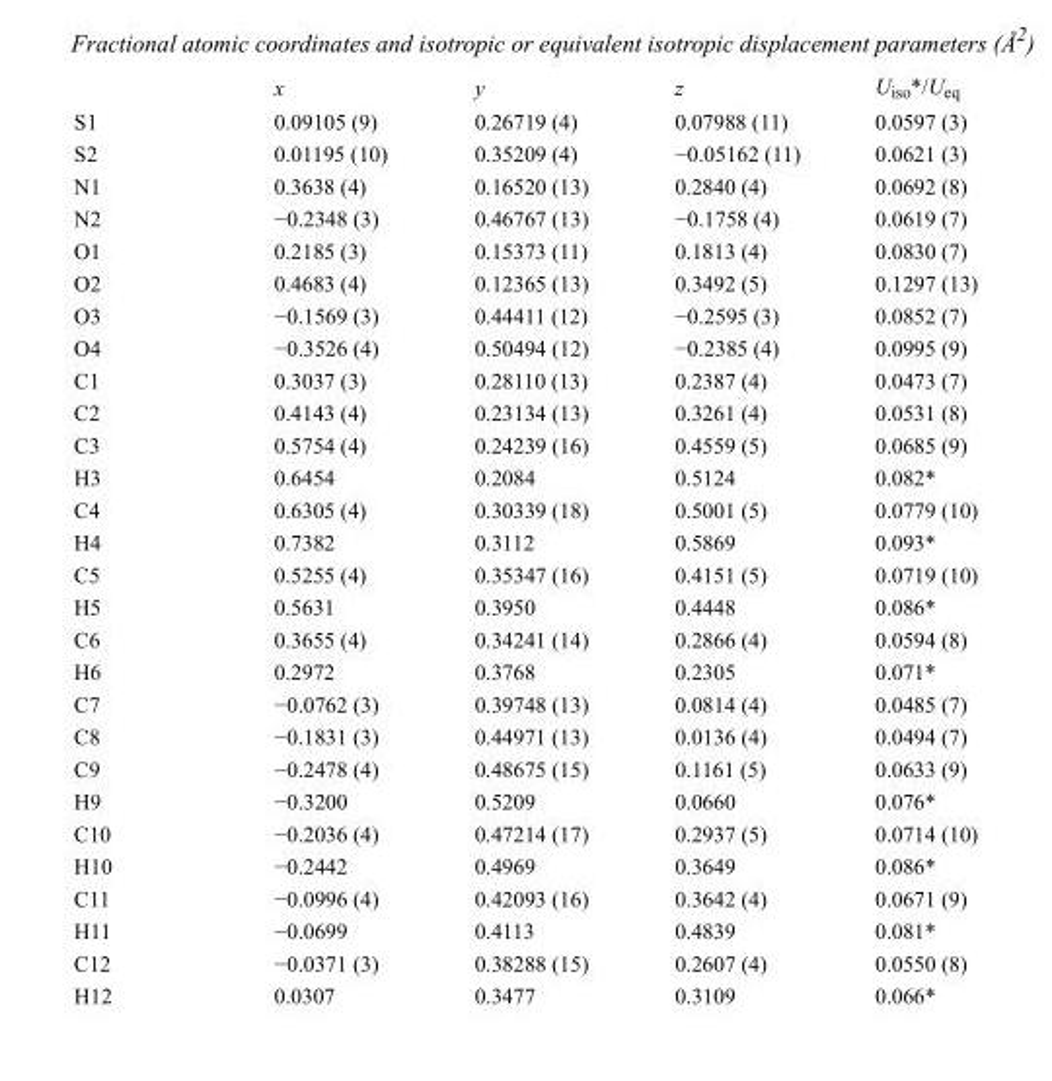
<table><thead><tr><td></td><td>x</td><td>y</td><td>z</td><td>U<sub>iso</sub>*/U<sub>eq</sub></td></tr></thead><tbody><tr><td>S1</td><td>0.09105 (9)</td><td>0.26719 (4)</td><td>0.07988 (11)</td><td>0.0597 (3)</td></tr><tr><td>S2</td><td>0.01195 (10)</td><td>0.35209 (4)</td><td>−0.05162 (11)</td><td>0.0621 (3)</td></tr><tr><td>N1</td><td>0.3638 (4)</td><td>0.16520 (13)</td><td>0.2840 (4)</td><td>0.0692 (8)</td></tr><tr><td>N2</td><td>−0.2348 (3)</td><td>0.46767 (13)</td><td>−0.1758 (4)</td><td>0.0619 (7)</td></tr><tr><td>O1</td><td>0.2185 (3)</td><td>0.15373 (11)</td><td>0.1813 (4)</td><td>0.0830 (7)</td></tr><tr><td>O2</td><td>0.4683 (4)</td><td>0.12365 (13)</td><td>0.3492 (5)</td><td>0.1297 (13)</td></tr><tr><td>O3</td><td>−0.1569 (3)</td><td>0.44411 (12)</td><td>−0.2595 (3)</td><td>0.0852 (7)</td></tr><tr><td>O4</td><td>−0.3526 (4)</td><td>0.50494 (12)</td><td>−0.2385 (4)</td><td>0.0995 (9)</td></tr><tr><td>C1</td><td>0.3037 (3)</td><td>0.28110 (13)</td><td>0.2387 (4)</td><td>0.0473 (7)</td></tr><tr><td>C2</td><td>0.4143 (4)</td><td>0.23134 (13)</td><td>0.3261 (4)</td><td>0.0531 (8)</td></tr><tr><td>C3</td><td>0.5754 (4)</td><td>0.24239 (16)</td><td>0.4559 (5)</td><td>0.0685 (9)</td></tr><tr><td>H3</td><td>0.6454</td><td>0.2084</td><td>0.5124</td><td>0.082*</td></tr><tr><td>C4</td><td>0.6305 (4)</td><td>0.30339 (18)</td><td>0.5001 (5)</td><td>0.0779 (10)</td></tr><tr><td>H4</td><td>0.7382</td><td>0.3112</td><td>0.5869</td><td>0.093*</td></tr><tr><td>C5</td><td>0.5255 (4)</td><td>0.35347 (16)</td><td>0.4151 (5)</td><td>0.0719 (10)</td></tr><tr><td>H5</td><td>0.5631</td><td>0.3950</td><td>0.4448</td><td>0.086*</td></tr><tr><td>C6</td><td>0.3655 (4)</td><td>0.34241 (14)</td><td>0.2866 (4)</td><td>0.0594 (8)</td></tr><tr><td>H6</td><td>0.2972</td><td>0.3768</td><td>0.2305</td><td>0.071*</td></tr><tr><td>C7</td><td>−0.0762 (3)</td><td>0.39748 (13)</td><td>0.0814 (4)</td><td>0.0485 (7)</td></tr><tr><td>C8</td><td>−0.1831 (3)</td><td>0.44971 (13)</td><td>0.0136 (4)</td><td>0.0494 (7)</td></tr><tr><td>C9</td><td>−0.2478 (4)</td><td>0.48675 (15)</td><td>0.1161 (5)</td><td>0.0633 (9)</td></tr><tr><td>H9</td><td>−0.3200</td><td>0.5209</td><td>0.0660</td><td>0.076*</td></tr><tr><td>C10</td><td>−0.2036 (4)</td><td>0.47214 (17)</td><td>0.2937 (5)</td><td>0.0714 (10)</td></tr><tr><td>H10</td><td>−0.2442</td><td>0.4969</td><td>0.3649</td><td>0.086*</td></tr><tr><td>C11</td><td>−0.0996 (4)</td><td>0.42093 (16)</td><td>0.3642 (4)</td><td>0.0671 (9)</td></tr><tr><td>H11</td><td>−0.0699</td><td>0.4113</td><td>0.4839</td><td>0.081*</td></tr><tr><td>C12</td><td>−0.0371 (3)</td><td>0.38288 (15)</td><td>0.2607 (4)</td><td>0.0550 (8)</td></tr><tr><td>H12</td><td>0.0307</td><td>0.3477</td><td>0.3109</td><td>0.066*</td></tr></tbody></table>